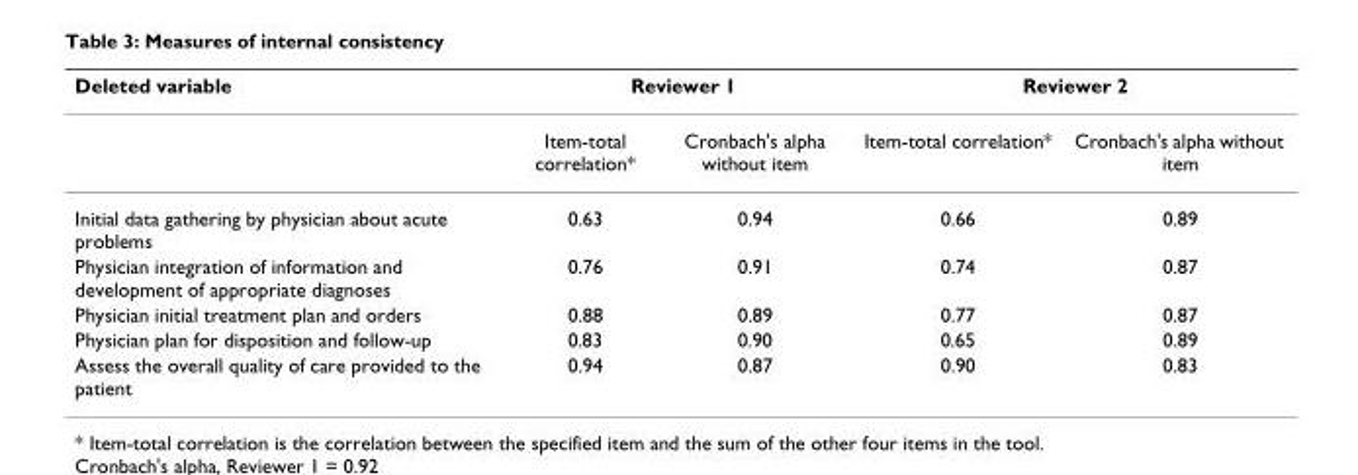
<table><thead><tr><td rowspan="2">Deleted variable</td><td colspan="2">Reviewer 1</td><td colspan="2">Reviewer 2</td></tr><tr><td>Item-total correlation*</td><td>Cronbach&#x27;s alpha without item</td><td>Item-total correlation*</td><td>Cronbach&#x27;s alpha without item</td></tr></thead><tbody><tr><td>Initial data gathering by physician about acute problems</td><td>0.63</td><td>0.94</td><td>0.66</td><td>0.89</td></tr><tr><td>Physician integration of information and development of appropriate diagnoses</td><td>0.76</td><td>0.91</td><td>0.74</td><td>0.87</td></tr><tr><td>Physician initial treatment plan and orders</td><td>0.88</td><td>0.89</td><td>0.77</td><td>0.87</td></tr><tr><td>Physician plan for disposition and follow-up</td><td>0.83</td><td>0.90</td><td>0.65</td><td>0.89</td></tr><tr><td>Assess the overall quality of care provided to the patient</td><td>0.94</td><td>0.87</td><td>0.90</td><td>0.83</td></tr></tbody></table>